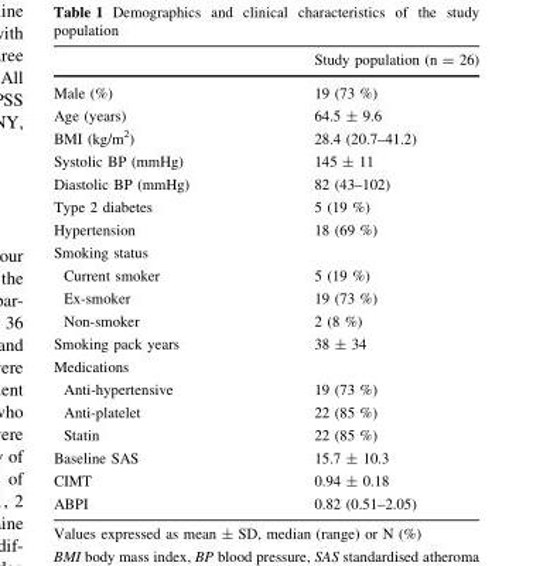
<table><thead><tr><td></td><td>Study population (n = 26)</td></tr></thead><tbody><tr><td>Male (%)</td><td>19 (73 %)</td></tr><tr><td>Age (years)</td><td>64.5 ± 9.6</td></tr><tr><td>BMI (kg/m<sup>2</sup>)</td><td>28.4 (20.7–41.2)</td></tr><tr><td>Systolic BP (mmHg)</td><td>145 ± 11</td></tr><tr><td>Diastolic BP (mmHg)</td><td>82 (43–102)</td></tr><tr><td>Type 2 diabetes</td><td>5 (19 %)</td></tr><tr><td>Hypertension</td><td>18 (69 %)</td></tr><tr><td colspan="2">Smoking status</td></tr><tr><td>Current smoker</td><td>5 (19 %)</td></tr><tr><td>Ex-smoker</td><td>19 (73 %)</td></tr><tr><td>Non-smoker</td><td>2 (8 %)</td></tr><tr><td>Smoking pack years</td><td>38 ± 34</td></tr><tr><td colspan="2">Medications</td></tr><tr><td>Anti-hypertensive</td><td>19 (73 %)</td></tr><tr><td>Anti-platelet</td><td>22 (85 %)</td></tr><tr><td>Statin</td><td>22 (85 %)</td></tr><tr><td>Baseline SAS</td><td>15.7 ± 10.3</td></tr><tr><td>CIMT</td><td>0.94 ± 0.18</td></tr><tr><td>ABPI</td><td>0.82 (0.51–2.05)</td></tr></tbody></table>